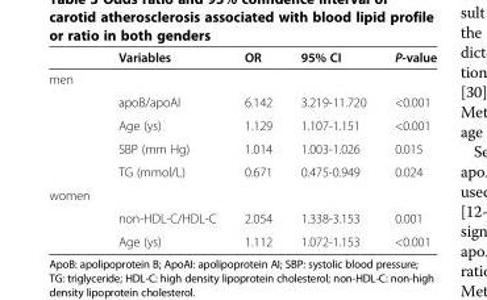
<table><thead><tr><td></td><td>Variables</td><td>OR</td><td>95% CI</td><td>P-value</td></tr></thead><tbody><tr><td colspan="5">men</td></tr><tr><td></td><td>apoB/apoAΙ</td><td>6.142</td><td>3.219-11.720</td><td>&lt;0.001</td></tr><tr><td></td><td>Age (ys)</td><td>1.129</td><td>1.107-1.151</td><td>&lt;0.001</td></tr><tr><td></td><td>SBP (mm Hg)</td><td>1.014</td><td>1.003-1.026</td><td>0.015</td></tr><tr><td></td><td>TG (mmol/L)</td><td>0.671</td><td>0.475-0.949</td><td>0.024</td></tr><tr><td colspan="5">women</td></tr><tr><td></td><td>non-HDL-C/HDL-C</td><td>2.054</td><td>1.338-3.153</td><td>0.001</td></tr><tr><td></td><td>Age (ys)</td><td>1.112</td><td>1.072-1.153</td><td>&lt;0.001</td></tr></tbody></table>